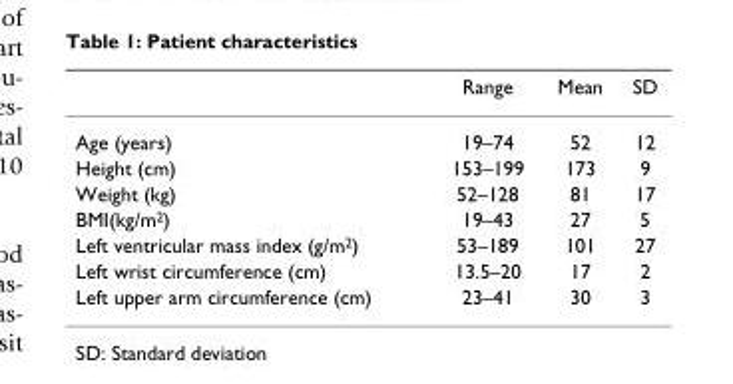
<table><thead><tr><td></td><td>Range</td><td>Mean</td><td>SD</td></tr></thead><tbody><tr><td>Age (years)</td><td>19–74</td><td>52</td><td>12</td></tr><tr><td>Height (cm)</td><td>153–199</td><td>173</td><td>9</td></tr><tr><td>Weight (kg)</td><td>52–128</td><td>81</td><td>17</td></tr><tr><td>BMI(kg/m<sup>2</sup>)</td><td>19–43</td><td>27</td><td>5</td></tr><tr><td>Left ventricular mass index (g/m<sup>2</sup>)</td><td>53–189</td><td>101</td><td>27</td></tr><tr><td>Left wrist circumference (cm)</td><td>13.5–20</td><td>17</td><td>2</td></tr><tr><td>Left upper arm circumference (cm)</td><td>23–41</td><td>30</td><td>3</td></tr></tbody></table>